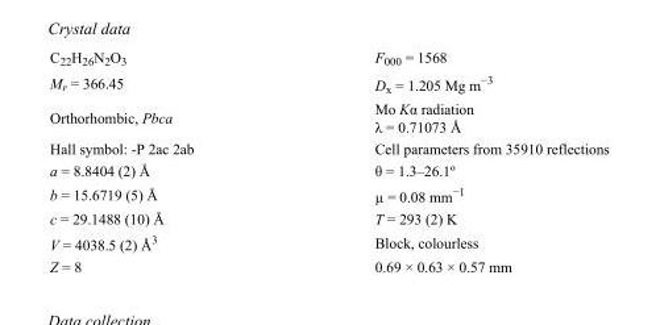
<table><tbody><tr><td>C<sub>22</sub>H<sub>26</sub>N<sub>2</sub>O<sub>3</sub></td><td>F000 = 1568</td></tr><tr><td>M<sub>r</sub> = 366.45</td><td>D<sub>x</sub> = 1.205 Mg m<sup>−3</sup></td></tr><tr><td>Orthorhombic, Pbca</td><td>Mo Kα radiation λ = 0.71073 Å</td></tr><tr><td>Hall symbol: -P 2ac 2ab</td><td>Cell parameters from 35910 reflections</td></tr><tr><td>a = 8.8404 (2) Å</td><td>θ = 1.3–26.1º</td></tr><tr><td>b = 15.6719 (5) Å</td><td>µ = 0.08 mm<sup>−1</sup></td></tr><tr><td>c = 29.1488 (10) Å</td><td>T = 293 (2) K</td></tr><tr><td>V = 4038.5 (2) Å<sup>3</sup></td><td>Block, colourless</td></tr><tr><td>Z = 8</td><td>0.69 × 0.63 × 0.57 mm</td></tr></tbody></table>